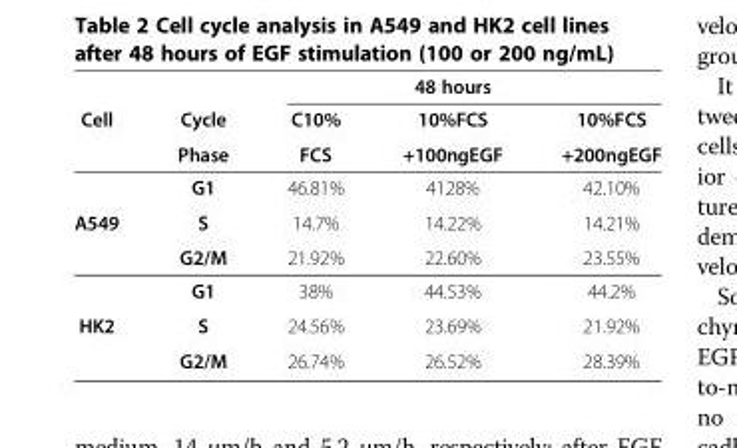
<table><thead><tr><td></td><td></td><td></td><td>48 hours</td><td></td></tr></thead><tbody><tr><td rowspan="3">Cell</td><td>Cycle</td><td>C10%</td><td>10%FCS</td><td>10%FCS</td></tr><tr><td>Phase</td><td>FCS</td><td>+100ngEGF</td><td>+200ngEGF</td></tr><tr><td>G1</td><td>46.81%</td><td>4128%</td><td>42.10%</td></tr><tr><td rowspan="3">A549</td><td>S</td><td>14.7%</td><td>14.22%</td><td>14.21%</td></tr><tr><td>G2/M</td><td>21.92%</td><td>22.60%</td><td>23.55%</td></tr><tr><td>G1</td><td>38%</td><td>44.53%</td><td>44.2%</td></tr><tr><td rowspan="2">HK2</td><td>S</td><td>24.56%</td><td>23.69%</td><td>21.92%</td></tr><tr><td>G2/M</td><td>26.74%</td><td>26.52%</td><td>28.39%</td></tr></tbody></table>